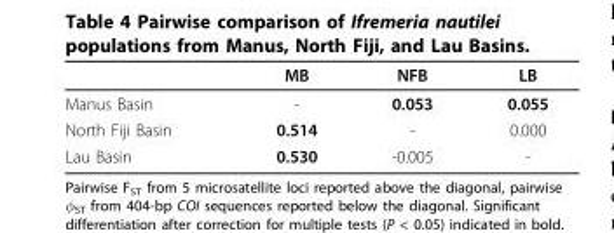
<table><thead><tr><td></td><td>MB</td><td>NFB</td><td>LB</td></tr></thead><tbody><tr><td>Manus Basin</td><td>-</td><td>0.053</td><td>0.055</td></tr><tr><td>North Fiji Basin</td><td>0.514</td><td>-</td><td>0.000</td></tr><tr><td>Lau Basin</td><td>0.530</td><td>-0.005</td><td>-</td></tr></tbody></table>